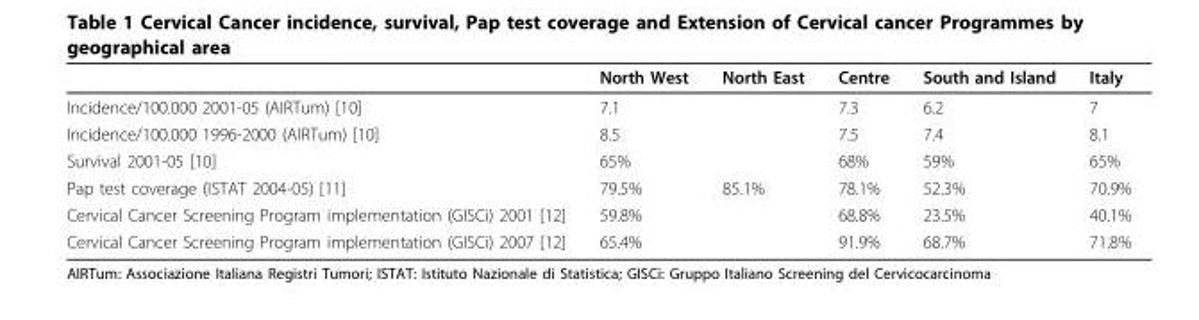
<table><thead><tr><td></td><td>North West</td><td>North East</td><td>Centre</td><td>South and Island</td><td>Italy</td></tr></thead><tbody><tr><td>Incidence/100.000 2001-05 (AIRTum) [10]</td><td>7.1</td><td></td><td>7.3</td><td>6.2</td><td>7</td></tr><tr><td>Incidence/100.000 1996-2000 (AIRTum) [10]</td><td>8.5</td><td></td><td>7.5</td><td>7.4</td><td>8.1</td></tr><tr><td>Survival 2001-05 [10]</td><td>65%</td><td></td><td>68%</td><td>59%</td><td>65%</td></tr><tr><td>Pap test coverage (ISTAT 2004-05) [11]</td><td>79.5%</td><td>85.1%</td><td>78.1%</td><td>52.3%</td><td>70.9%</td></tr><tr><td>Cervical Cancer Screening Program implementation (GISCi) 2001 [12]</td><td>59.8%</td><td></td><td>68.8%</td><td>23.5%</td><td>40.1%</td></tr><tr><td>Cervical Cancer Screening Program implementation (GISCi) 2007 [12]</td><td>65.4%</td><td></td><td>91.9%</td><td>68.7%</td><td>71.8%</td></tr></tbody></table>